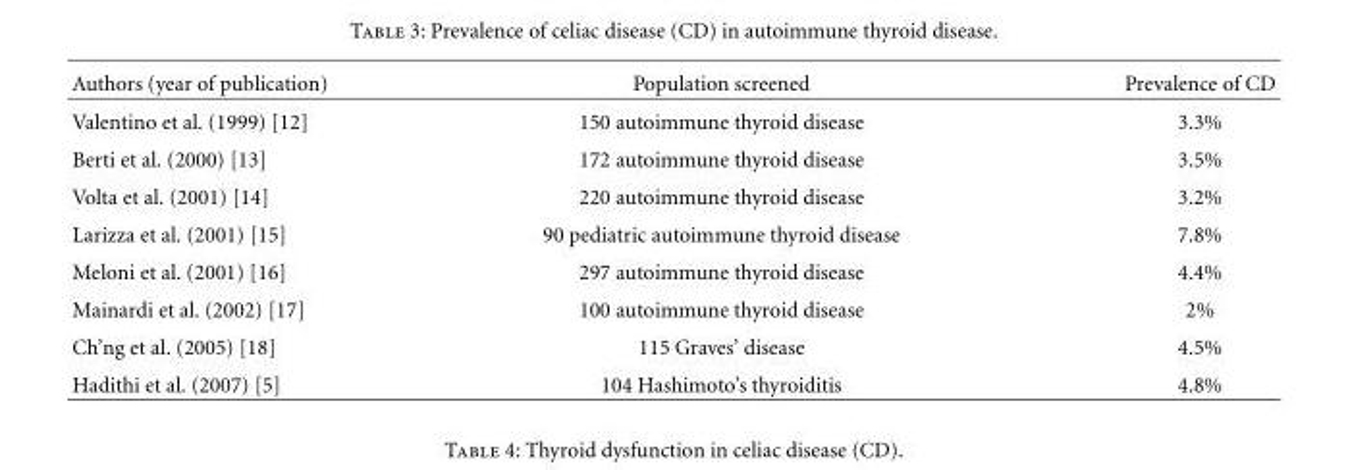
<table><thead><tr><td>Authors (year of publication)</td><td>Population screened</td><td>Prevalence of CD</td></tr></thead><tbody><tr><td>Valentino et al. (1999) [12]</td><td>150 autoimmune thyroid disease</td><td>3.3%</td></tr><tr><td>Berti et al. (2000) [13]</td><td>172 autoimmune thyroid disease</td><td>3.5%</td></tr><tr><td>Volta et al. (2001) [14]</td><td>220 autoimmune thyroid disease</td><td>3.2%</td></tr><tr><td>Larizza et al. (2001) [15]</td><td>90 pediatric autoimmune thyroid disease</td><td>7.8%</td></tr><tr><td>Meloni et al. (2001) [16]</td><td>297 autoimmune thyroid disease</td><td>4.4%</td></tr><tr><td>Mainardi et al. (2002) [17]</td><td>100 autoimmune thyroid disease</td><td>2%</td></tr><tr><td>Ch’ng et al. (2005) [18]</td><td>115 Graves’ disease</td><td>4.5%</td></tr><tr><td>Hadithi et al. (2007) [5]</td><td>104 Hashimoto’s thyroiditis</td><td>4.8%</td></tr></tbody></table>